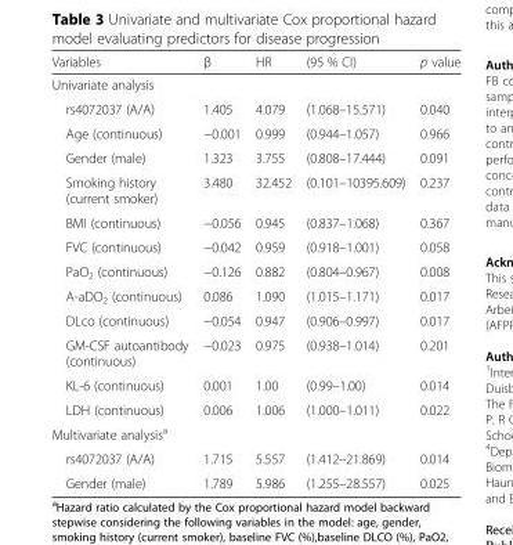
<table><thead><tr><td>Variables</td><td>β</td><td>HR</td><td>(95 % CI)</td><td>p value</td></tr></thead><tbody><tr><td colspan="5">Univariate analysis</td></tr><tr><td>rs4072037 (A/A)</td><td>1.405</td><td>4.079</td><td>(1.068–15.571)</td><td>0.040</td></tr><tr><td>Age (continuous)</td><td>−0.001</td><td>0.999</td><td>(0.944–1.057)</td><td>0.966</td></tr><tr><td>Gender (male)</td><td>1.323</td><td>3.755</td><td>(0.808–17.444)</td><td>0.091</td></tr><tr><td>Smoking history (current smoker)</td><td>3.480</td><td>32.452</td><td>(0.101–10395.609)</td><td>0.237</td></tr><tr><td>BMI (continuous)</td><td>−0.056</td><td>0.945</td><td>(0.837–1.068)</td><td>0.367</td></tr><tr><td>FVC (continuous)</td><td>−0.042</td><td>0.959</td><td>(0.918–1.001)</td><td>0.058</td></tr><tr><td>PaO<sub>2</sub> (continuous)</td><td>−0.126</td><td>0.882</td><td>(0.804–0.967)</td><td>0.008</td></tr><tr><td>A-aDO<sub>2</sub> (continuous)</td><td>0.086</td><td>1.090</td><td>(1.015–1.171)</td><td>0.017</td></tr><tr><td>DLco (continuous)</td><td>−0.054</td><td>0.947</td><td>(0.906–0.997)</td><td>0.017</td></tr><tr><td>GM-CSF autoantibody (continuous)</td><td>−0.023</td><td>0.975</td><td>(0.938–1.014)</td><td>0.201</td></tr><tr><td>KL-6 (continuous)</td><td>0.001</td><td>1.00</td><td>(0.99–1.00)</td><td>0.014</td></tr><tr><td>LDH (continuous)</td><td>0.006</td><td>1.006</td><td>(1.000–1.011)</td><td>0.022</td></tr><tr><td colspan="5">Multivariate analysis<sup>a</sup></td></tr><tr><td>rs4072037 (A/A)</td><td>1.715</td><td>5.557</td><td>(1.412–21.869)</td><td>0.014</td></tr><tr><td>Gender (male)</td><td>1.789</td><td>5.986</td><td>(1.255–28.557)</td><td>0.025</td></tr></tbody></table>